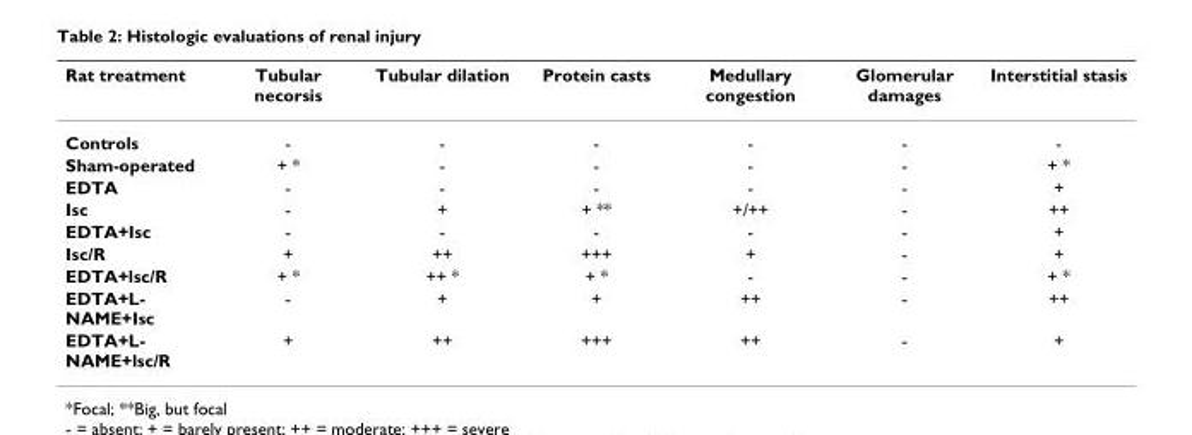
<table><thead><tr><td>Rat treatment</td><td>Tubular necorsis</td><td>Tubular dilation</td><td>Protein casts</td><td>Medullary congestion</td><td>Glomerular damages</td><td>Interstitial stasis</td></tr></thead><tbody><tr><td>Controls</td><td>-</td><td>-</td><td>-</td><td>-</td><td>-</td><td>-</td></tr><tr><td>Sham-operated</td><td>+ *</td><td>-</td><td>-</td><td>-</td><td>-</td><td>+ *</td></tr><tr><td>EDTA</td><td>-</td><td>-</td><td>-</td><td>-</td><td>-</td><td>+</td></tr><tr><td>Isc</td><td>-</td><td>+</td><td>+ **</td><td>+/++</td><td>-</td><td>++</td></tr><tr><td>EDTA+Isc</td><td>-</td><td>-</td><td>-</td><td>-</td><td>-</td><td>+</td></tr><tr><td>Isc/R</td><td>+</td><td>++</td><td>+++</td><td>+</td><td>-</td><td>+</td></tr><tr><td>EDTA+lsc/R</td><td>+ *</td><td>++ *</td><td>+ *</td><td>-</td><td>-</td><td>+ *</td></tr><tr><td>EDTA+L- NAME+Isc</td><td>-</td><td>+</td><td>+</td><td>++</td><td>-</td><td>++</td></tr><tr><td>EDTA+L- NAME+lsc/R</td><td>+</td><td>++</td><td>+++</td><td>++</td><td>-</td><td>+</td></tr></tbody></table>